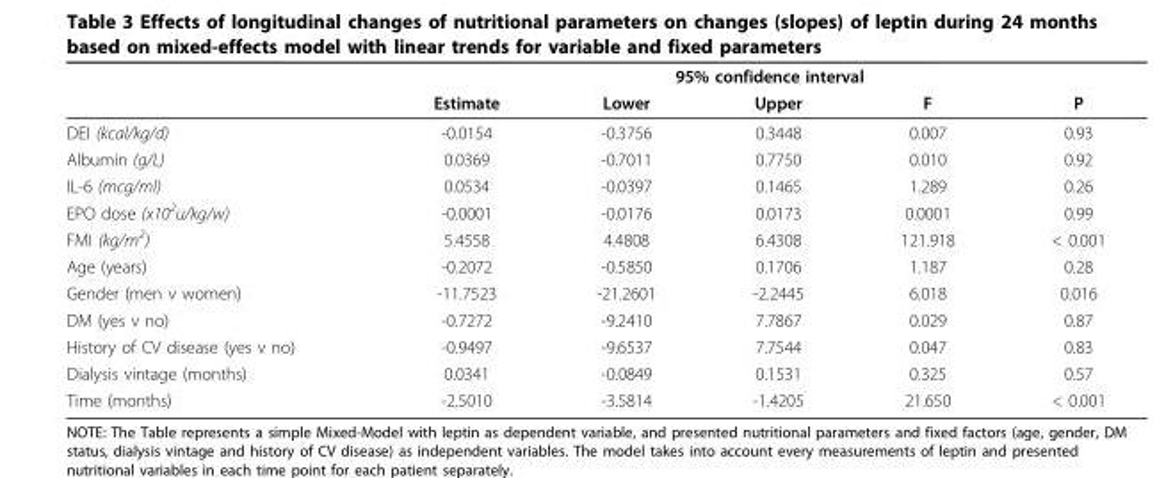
<table><thead><tr><td rowspan="2"></td><td colspan="5">95% confidence interval</td></tr><tr><td>Estimate</td><td>Lower</td><td>Upper</td><td>F</td><td>P</td></tr></thead><tbody><tr><td>DEI (kcal/kg/d)</td><td>-0.0154</td><td>-0.3756</td><td>0.3448</td><td>0.007</td><td>0.93</td></tr><tr><td>Albumin (g/L)</td><td>0.0369</td><td>-0.7011</td><td>0.7750</td><td>0.010</td><td>0.92</td></tr><tr><td>IL-6 (mcg/ml)</td><td>0.0534</td><td>-0.0397</td><td>0.1465</td><td>1.289</td><td>0.26</td></tr><tr><td>EPO dose (x10<sup>2</sup>u/kg/w)</td><td>-0.0001</td><td>-0.0176</td><td>0.0173</td><td>0.0001</td><td>0.99</td></tr><tr><td>FMI (kg/m<sup>2</sup>)</td><td>5.4558</td><td>4.4808</td><td>6.4308</td><td>121.918</td><td>&lt; 0.001</td></tr><tr><td>Age (years)</td><td>-0.2072</td><td>-0.5850</td><td>0.1706</td><td>1.187</td><td>0.28</td></tr><tr><td>Gender (men v women)</td><td>-11.7523</td><td>-21.2601</td><td>-2.2445</td><td>6.018</td><td>0.016</td></tr><tr><td>DM (yes v no)</td><td>-0.7272</td><td>-9.2410</td><td>7.7867</td><td>0.029</td><td>0.87</td></tr><tr><td>History of CV disease (yes v no)</td><td>-0.9497</td><td>-9.6537</td><td>7.7544</td><td>0.047</td><td>0.83</td></tr><tr><td>Dialysis vintage (months)</td><td>0.0341</td><td>-0.0849</td><td>0.1531</td><td>0.325</td><td>0.57</td></tr><tr><td>Time (months)</td><td>-2.5010</td><td>-3.5814</td><td>-1.4205</td><td>21.650</td><td>&lt; 0.001</td></tr></tbody></table>